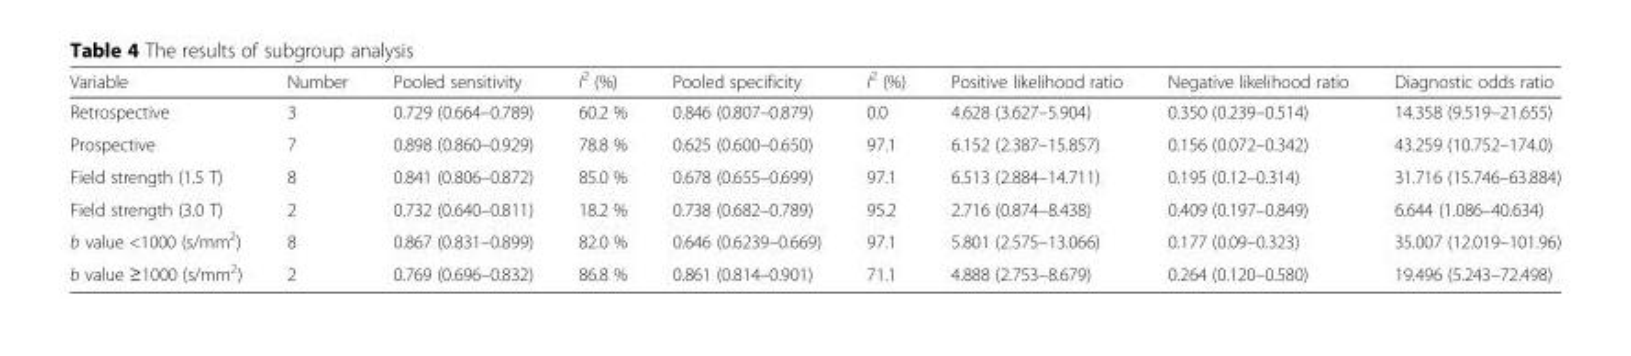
<table><thead><tr><td>Variable</td><td>Number</td><td>Pooled sensitivity</td><td>I<sup>2</sup> (%)</td><td>Pooled specificity</td><td>I<sup>2</sup> (%)</td><td>Positive likelihood ratio</td><td>Negative likelihood ratio</td><td>Diagnostic odds ratio</td></tr></thead><tbody><tr><td>Retrospective</td><td>3</td><td>0.729 (0.664–0.789)</td><td>60.2 %</td><td>0.846 (0.807–0.879)</td><td>0.0</td><td>4.628 (3.627–5.904)</td><td>0.350 (0.239–0.514)</td><td>14.358 (9.519–21.655)</td></tr><tr><td>Prospective</td><td>7</td><td>0.898 (0.860–0.929)</td><td>78.8 %</td><td>0.625 (0.600–0.650)</td><td>97.1</td><td>6.152 (2.387–15.857)</td><td>0.156 (0.072–0.342)</td><td>43.259 (10.752–174.0)</td></tr><tr><td>Field strength (1.5 T)</td><td>8</td><td>0.841 (0.806–0.872)</td><td>85.0 %</td><td>0.678 (0.655–0.699)</td><td>97.1</td><td>6.513 (2.884–14.711)</td><td>0.195 (0.12–0.314)</td><td>31.716 (15.746–63.884)</td></tr><tr><td>Field strength (3.0 T)</td><td>2</td><td>0.732 (0.640–0.811)</td><td>18.2 %</td><td>0.738 (0.682–0.789)</td><td>95.2</td><td>2.716 (0.874–8.438)</td><td>0.409 (0.197–0.849)</td><td>6.644 (1.086–40.634)</td></tr><tr><td>b value &lt;1000 (s/mm<sup>2</sup>)</td><td>8</td><td>0.867 (0.831–0.899)</td><td>82.0 %</td><td>0.646 (0.6239–0.669)</td><td>97.1</td><td>5.801 (2.575–13.066)</td><td>0.177 (0.09–0.323)</td><td>35.007 (12.019–101.96)</td></tr><tr><td>b value ≥1000 (s/mm<sup>2</sup>)</td><td>2</td><td>0.769 (0.696–0.832)</td><td>86.8 %</td><td>0.861 (0.814–0.901)</td><td>71.1</td><td>4.888 (2.753–8.679)</td><td>0.264 (0.120–0.580)</td><td>19.496 (5.243–72.498)</td></tr></tbody></table>